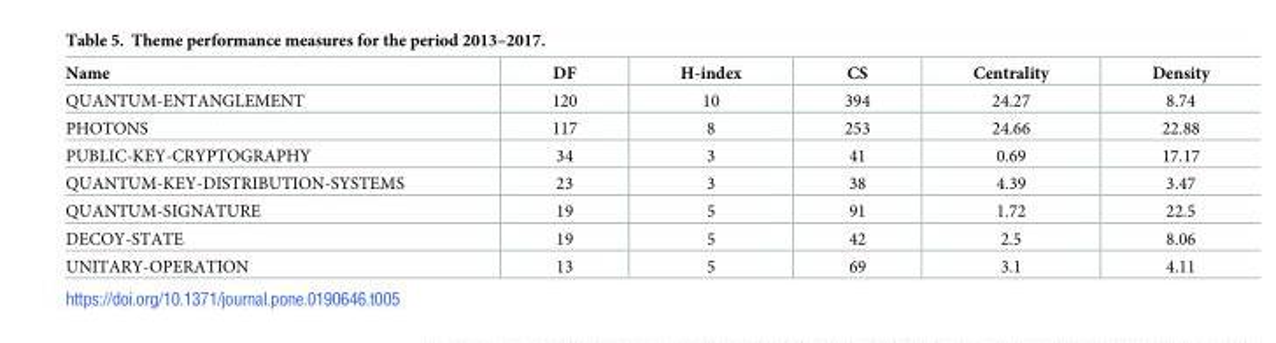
<table><thead><tr><td>Name</td><td>DF</td><td>H-index</td><td>CS</td><td>Centrality</td><td>Density</td></tr></thead><tbody><tr><td>QUANTUM-ENTANGLEMENT</td><td>120</td><td>10</td><td>394</td><td>24.27</td><td>8.74</td></tr><tr><td>PHOTONS</td><td>117</td><td>8</td><td>253</td><td>24.66</td><td>22.88</td></tr><tr><td>PUBLIC-KEY-CRYPTOGRAPHY</td><td>34</td><td>3</td><td>41</td><td>0.69</td><td>17.17</td></tr><tr><td>QUANTUM-KEY-DISTRIBUTION-SYSTEMS</td><td>23</td><td>3</td><td>38</td><td>4.39</td><td>3.47</td></tr><tr><td>QUANTUM-SIGNATURE</td><td>19</td><td>5</td><td>91</td><td>1.72</td><td>22.5</td></tr><tr><td>DECOY-STATE</td><td>19</td><td>5</td><td>42</td><td>2.5</td><td>8.06</td></tr><tr><td>UNITARY-OPERATION</td><td>13</td><td>5</td><td>69</td><td>3.1</td><td>4.11</td></tr></tbody></table>